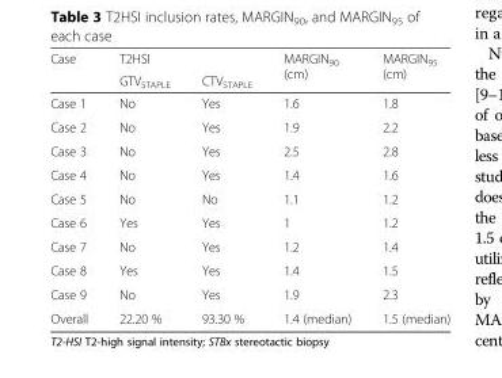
<table><thead><tr><td rowspan="2">Case</td><td colspan="2">T2HSI</td><td rowspan="2">MARGIN<sub>90</sub> (cm)</td><td rowspan="2">MARGIN<sub>95</sub> (cm)</td></tr><tr><td>GTV<sub>STAPLE</sub></td><td>CTV<sub>STAPLE</sub></td></tr></thead><tbody><tr><td>Case 1</td><td>No</td><td>Yes</td><td>1.6</td><td>1.8</td></tr><tr><td>Case 2</td><td>No</td><td>Yes</td><td>1.9</td><td>2.2</td></tr><tr><td>Case 3</td><td>No</td><td>Yes</td><td>2.5</td><td>2.8</td></tr><tr><td>Case 4</td><td>No</td><td>Yes</td><td>1.4</td><td>1.6</td></tr><tr><td>Case 5</td><td>No</td><td>No</td><td>1.1</td><td>1.2</td></tr><tr><td>Case 6</td><td>Yes</td><td>Yes</td><td>1</td><td>1.2</td></tr><tr><td>Case 7</td><td>No</td><td>Yes</td><td>1.2</td><td>1.4</td></tr><tr><td>Case 8</td><td>Yes</td><td>Yes</td><td>1.4</td><td>1.5</td></tr><tr><td>Case 9</td><td>No</td><td>Yes</td><td>1.9</td><td>2.3</td></tr><tr><td>Overall</td><td>22.20 %</td><td>93.30 %</td><td>1.4 (median)</td><td>1.5 (median)</td></tr></tbody></table>